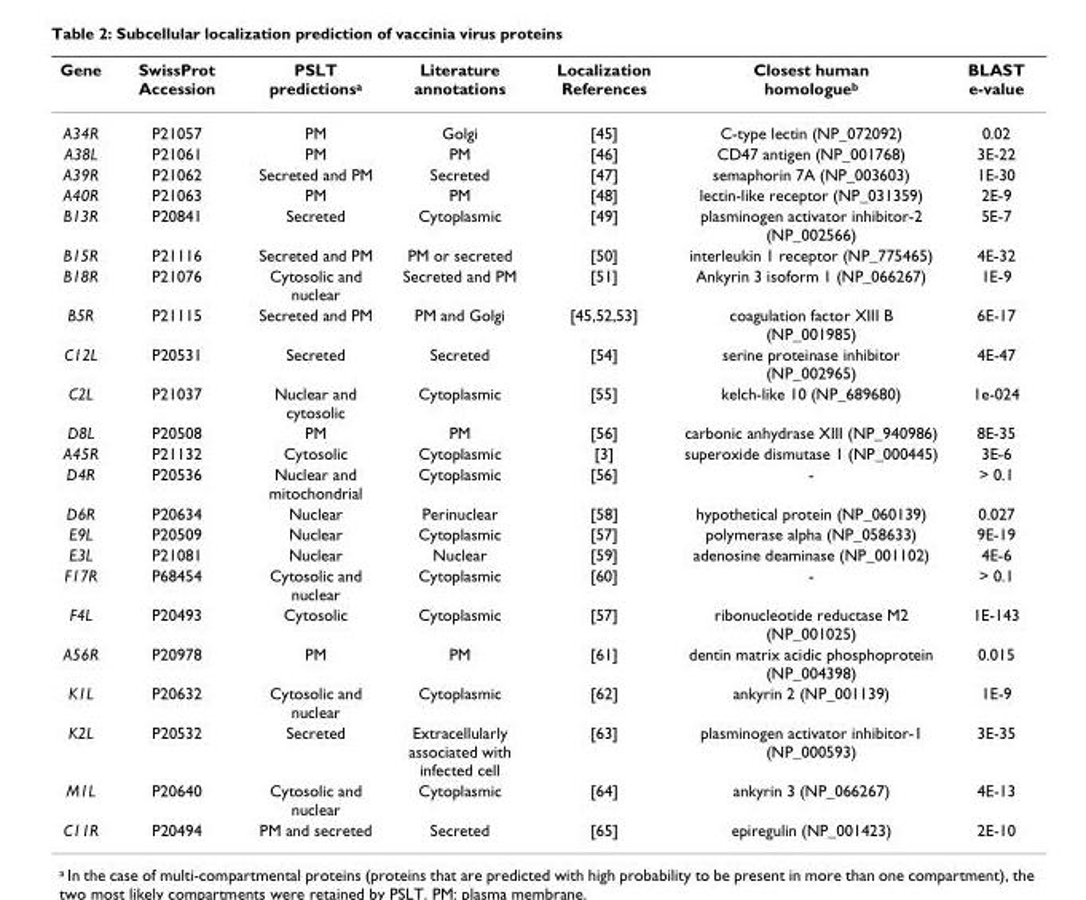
<table><thead><tr><td>Gene</td><td>SwissProt Accession</td><td>PSLT predictions<sup>a</sup></td><td>Literature annotations</td><td>Localization References</td><td>Closest human homologue<sup>b</sup></td><td>BLAST e-value</td></tr></thead><tbody><tr><td>A34R</td><td>P21057</td><td>PM</td><td>Golgi</td><td>[45]</td><td>C-type lectin (NP_072092)</td><td>0.02</td></tr><tr><td>A38L</td><td>P21061</td><td>PM</td><td>PM</td><td>[46]</td><td>CD47 antigen (NP_001768)</td><td>3E-22</td></tr><tr><td>A39R</td><td>P21062</td><td>Secreted and PM</td><td>Secreted</td><td>[47]</td><td>semaphorin 7A (NP_003603)</td><td>1E-30</td></tr><tr><td>A40R</td><td>P21063</td><td>PM</td><td>PM</td><td>[48]</td><td>lectin-like receptor (NP_031359)</td><td>2E-9</td></tr><tr><td>B13R</td><td>P20841</td><td>Secreted</td><td>Cytoplasmic</td><td>[49]</td><td>plasminogen activator inhibitor-2 (NP_002566)</td><td>5E-7</td></tr><tr><td>B15R</td><td>P21116</td><td>Secreted and PM</td><td>PM or secreted</td><td>[50]</td><td>interleukin 1 receptor (NP_775465)</td><td>4E-32</td></tr><tr><td>B18R</td><td>P21076</td><td>Cytosolic and nuclear</td><td>Secreted and PM</td><td>[51]</td><td>Ankyrin 3 isoform 1 (NP_066267)</td><td>1E-9</td></tr><tr><td>B5R</td><td>P21115</td><td>Secreted and PM</td><td>PM and Golgi</td><td>[45,52,53]</td><td>coagulation factor XIII B (NP_001985)</td><td>6E-17</td></tr><tr><td>C12L</td><td>P20531</td><td>Secreted</td><td>Secreted</td><td>[54]</td><td>serine proteinase inhibitor (NP_002965)</td><td>4E-47</td></tr><tr><td>C2L</td><td>P21037</td><td>Nuclear and cytosolic</td><td>Cytoplasmic</td><td>[55]</td><td>kelch-like 10 (NP_689680)</td><td>1e-024</td></tr><tr><td>D8L</td><td>P20508</td><td>PM</td><td>PM</td><td>[56]</td><td>carbonic anhydrase XIII (NP_940986)</td><td>8E-35</td></tr><tr><td>A45R</td><td>P21132</td><td>Cytosolic</td><td>Cytoplasmic</td><td>[3]</td><td>superoxide dismutase 1 (NP_000445)</td><td>3E-6</td></tr><tr><td>D4R</td><td>P20536</td><td>Nuclear and mitochondrial</td><td>Cytoplasmic</td><td>[56]</td><td>-</td><td>&gt; 0.1</td></tr><tr><td>D6R</td><td>P20634</td><td>Nuclear</td><td>Perinuclear</td><td>[58]</td><td>hypothetical protein (NP_060139)</td><td>0.027</td></tr><tr><td>E9L</td><td>P20509</td><td>Nuclear</td><td>Cytoplasmic</td><td>[57]</td><td>polymerase alpha (NP_058633)</td><td>9E-19</td></tr><tr><td>E3L</td><td>P21081</td><td>Nuclear</td><td>Nuclear</td><td>[59]</td><td>adenosine deaminase (NP_001102)</td><td>4E-6</td></tr><tr><td>F17R</td><td>P68454</td><td>Cytosolic and nuclear</td><td>Cytoplasmic</td><td>[60]</td><td>-</td><td>&gt; 0.1</td></tr><tr><td>F4L</td><td>P20493</td><td>Cytosolic</td><td>Cytoplasmic</td><td>[57]</td><td>ribonucleotide reductase M2 (NP_001025)</td><td>1E-143</td></tr><tr><td>A56R</td><td>P20978</td><td>PM</td><td>PM</td><td>[61]</td><td>dentin matrix acidic phosphoprotein (NP_004398)</td><td>0.015</td></tr><tr><td>K1L</td><td>P20632</td><td>Cytosolic and nuclear</td><td>Cytoplasmic</td><td>[62]</td><td>ankyrin 2 (NP_001139)</td><td>1E-9</td></tr><tr><td>K2L</td><td>P20532</td><td>Secreted</td><td>Extracellularly associated with infected cell</td><td>[63]</td><td>plasminogen activator inhibitor-1 (NP_000593)</td><td>3E-35</td></tr><tr><td>M1L</td><td>P20640</td><td>Cytosolic and nuclear</td><td>Cytoplasmic</td><td>[64]</td><td>ankyrin 3 (NP_066267)</td><td>4E-13</td></tr><tr><td>C11R</td><td>P20494</td><td>PM and secreted</td><td>Secreted</td><td>[65]</td><td>epiregulin (NP_001423)</td><td>2E-10</td></tr></tbody></table>